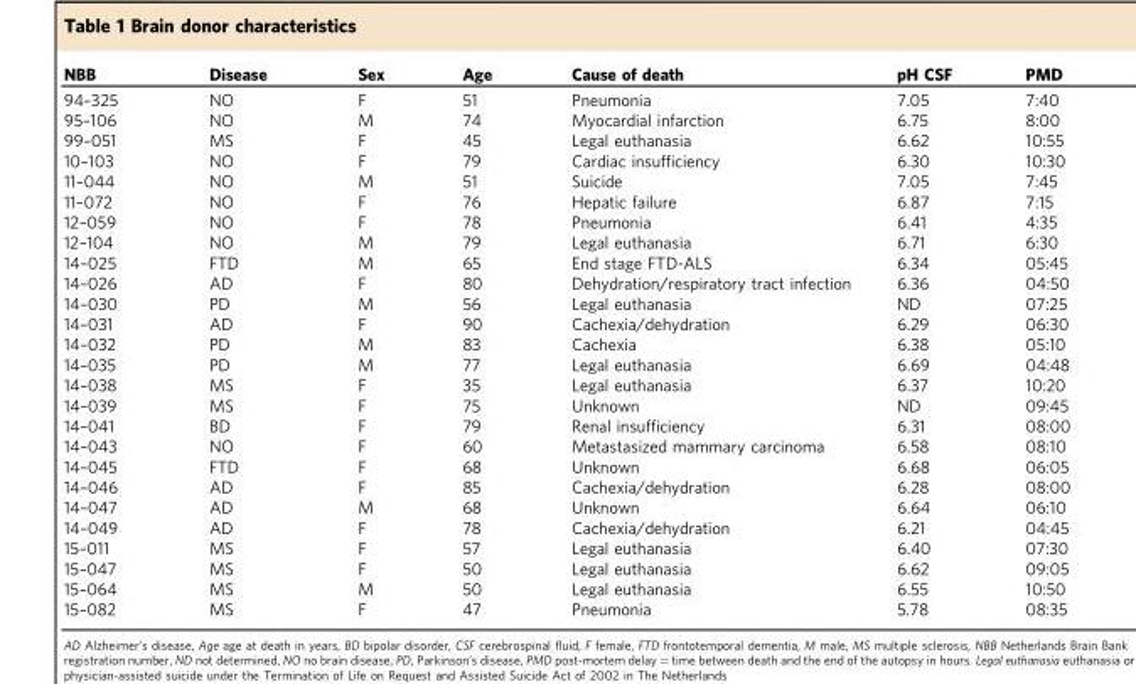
<table><thead><tr><td>NBB</td><td>Disease</td><td>Sex</td><td>Age</td><td>Cause of death</td><td>pH CSF</td><td>PMD</td></tr></thead><tbody><tr><td>94–325</td><td>NO</td><td>F</td><td>51</td><td>Pneumonia</td><td>7.05</td><td>7:40</td></tr><tr><td>95–106</td><td>NO</td><td>M</td><td>74</td><td>Myocardial infarction</td><td>6.75</td><td>8:00</td></tr><tr><td>99–051</td><td>MS</td><td>F</td><td>45</td><td>Legal euthanasia</td><td>6.62</td><td>10:55</td></tr><tr><td>10–103</td><td>NO</td><td>F</td><td>79</td><td>Cardiac insufficiency</td><td>6.30</td><td>10:30</td></tr><tr><td>11–044</td><td>NO</td><td>M</td><td>51</td><td>Suicide</td><td>7.05</td><td>7:45</td></tr><tr><td>11–072</td><td>NO</td><td>F</td><td>76</td><td>Hepatic failure</td><td>6.87</td><td>7:15</td></tr><tr><td>12–059</td><td>NO</td><td>F</td><td>78</td><td>Pneumonia</td><td>6.41</td><td>4:35</td></tr><tr><td>12–104</td><td>NO</td><td>M</td><td>79</td><td>Legal euthanasia</td><td>6.71</td><td>6:30</td></tr><tr><td>14–025</td><td>FTD</td><td>M</td><td>65</td><td>End stage FTD-ALS</td><td>6.34</td><td>05:45</td></tr><tr><td>14–026</td><td>AD</td><td>F</td><td>80</td><td>Dehydration/respiratory tract infection</td><td>6.36</td><td>04:50</td></tr><tr><td>14–030</td><td>PD</td><td>M</td><td>56</td><td>Legal euthanasia</td><td>ND</td><td>07:25</td></tr><tr><td>14–031</td><td>AD</td><td>F</td><td>90</td><td>Cachexia/dehydration</td><td>6.29</td><td>06:30</td></tr><tr><td>14–032</td><td>PD</td><td>M</td><td>83</td><td>Cachexia</td><td>6.38</td><td>05:10</td></tr><tr><td>14–035</td><td>PD</td><td>M</td><td>77</td><td>Legal euthanasia</td><td>6.69</td><td>04:48</td></tr><tr><td>14–038</td><td>MS</td><td>F</td><td>35</td><td>Legal euthanasia</td><td>6.37</td><td>10:20</td></tr><tr><td>14–039</td><td>MS</td><td>F</td><td>75</td><td>Unknown</td><td>ND</td><td>09:45</td></tr><tr><td>14–041</td><td>BD</td><td>F</td><td>79</td><td>Renal insufficiency</td><td>6.31</td><td>08:00</td></tr><tr><td>14–043</td><td>NO</td><td>F</td><td>60</td><td>Metastasized mammary carcinoma</td><td>6.58</td><td>08:10</td></tr><tr><td>14–045</td><td>FTD</td><td>F</td><td>68</td><td>Unknown</td><td>6.68</td><td>06:05</td></tr><tr><td>14–046</td><td>AD</td><td>F</td><td>85</td><td>Cachexia/dehydration</td><td>6.28</td><td>08:00</td></tr><tr><td>14–047</td><td>AD</td><td>M</td><td>68</td><td>Unknown</td><td>6.64</td><td>06:10</td></tr><tr><td>14–049</td><td>AD</td><td>F</td><td>78</td><td>Cachexia/dehydration</td><td>6.21</td><td>04:45</td></tr><tr><td>15–011</td><td>MS</td><td>F</td><td>57</td><td>Legal euthanasia</td><td>6.40</td><td>07:30</td></tr><tr><td>15–047</td><td>MS</td><td>F</td><td>50</td><td>Legal euthanasia</td><td>6.62</td><td>09:05</td></tr><tr><td>15–064</td><td>MS</td><td>M</td><td>50</td><td>Legal euthanasia</td><td>6.55</td><td>10:50</td></tr><tr><td>15–082</td><td>MS</td><td>F</td><td>47</td><td>Pneumonia</td><td>5.78</td><td>08:35</td></tr></tbody></table>